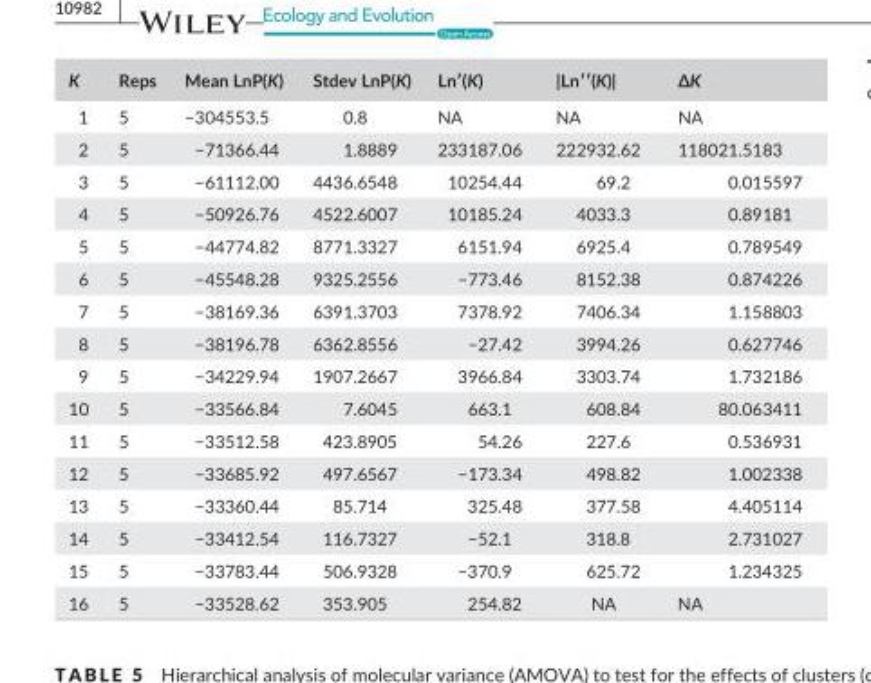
<table><thead><tr><td>K</td><td>Reps</td><td>Mean LnP(K)</td><td>Stdev LnP(K)</td><td>Ln′(K)</td><td>|Ln′′(K)|</td><td>∆K</td></tr></thead><tbody><tr><td>1</td><td>5</td><td>−304553.5</td><td>0.8</td><td>NA</td><td>NA</td><td>NA</td></tr><tr><td>2</td><td>5</td><td>−71366.44</td><td>1.8889</td><td>233187.06</td><td>222932.62</td><td>118021.5183</td></tr><tr><td>3</td><td>5</td><td>−61112.00</td><td>4436.6548</td><td>10254.44</td><td>69.2</td><td>0.015597</td></tr><tr><td>4</td><td>5</td><td>−50926.76</td><td>4522.6007</td><td>10185.24</td><td>4033.3</td><td>0.89181</td></tr><tr><td>5</td><td>5</td><td>−44774.82</td><td>8771.3327</td><td>6151.94</td><td>6925.4</td><td>0.789549</td></tr><tr><td>6</td><td>5</td><td>−45548.28</td><td>9325.2556</td><td>−773.46</td><td>8152.38</td><td>0.874226</td></tr><tr><td>7</td><td>5</td><td>−38169.36</td><td>6391.3703</td><td>7378.92</td><td>7406.34</td><td>1.158803</td></tr><tr><td>8</td><td>5</td><td>−38196.78</td><td>6362.8556</td><td>−27.42</td><td>3994.26</td><td>0.627746</td></tr><tr><td>9</td><td>5</td><td>−34229.94</td><td>1907.2667</td><td>3966.84</td><td>3303.74</td><td>1.732186</td></tr><tr><td>10</td><td>5</td><td>−33566.84</td><td>7.6045</td><td>663.1</td><td>608.84</td><td>80.063411</td></tr><tr><td>11</td><td>5</td><td>−33512.58</td><td>423.8905</td><td>54.26</td><td>227.6</td><td>0.536931</td></tr><tr><td>12</td><td>5</td><td>−33685.92</td><td>497.6567</td><td>−173.34</td><td>498.82</td><td>1.002338</td></tr><tr><td>13</td><td>5</td><td>−33360.44</td><td>85.714</td><td>325.48</td><td>377.58</td><td>4.405114</td></tr><tr><td>14</td><td>5</td><td>−33412.54</td><td>116.7327</td><td>−52.1</td><td>318.8</td><td>2.731027</td></tr><tr><td>15</td><td>5</td><td>−33783.44</td><td>506.9328</td><td>−370.9</td><td>625.72</td><td>1.234325</td></tr><tr><td>16</td><td>5</td><td>−33528.62</td><td>353.905</td><td>254.82</td><td>NA</td><td>NA</td></tr></tbody></table>